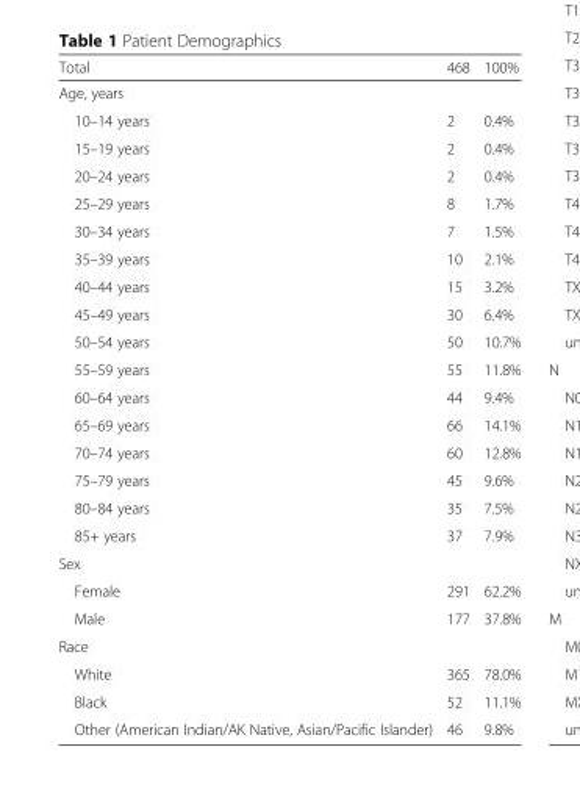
<table><thead><tr><td>Total</td><td>468</td><td>100%</td></tr></thead><tbody><tr><td colspan="3">Age, years</td></tr><tr><td>10–14 years</td><td>2</td><td>0.4%</td></tr><tr><td>15–19 years</td><td>2</td><td>0.4%</td></tr><tr><td>20–24 years</td><td>2</td><td>0.4%</td></tr><tr><td>25–29 years</td><td>8</td><td>1.7%</td></tr><tr><td>30–34 years</td><td>7</td><td>1.5%</td></tr><tr><td>35–39 years</td><td>10</td><td>2.1%</td></tr><tr><td>40–44 years</td><td>15</td><td>3.2%</td></tr><tr><td>45–49 years</td><td>30</td><td>6.4%</td></tr><tr><td>50–54 years</td><td>50</td><td>10.7%</td></tr><tr><td>55–59 years</td><td>55</td><td>11.8%</td></tr><tr><td>60–64 years</td><td>44</td><td>9.4%</td></tr><tr><td>65–69 years</td><td>66</td><td>14.1%</td></tr><tr><td>70–74 years</td><td>60</td><td>12.8%</td></tr><tr><td>75–79 years</td><td>45</td><td>9.6%</td></tr><tr><td>80–84 years</td><td>35</td><td>7.5%</td></tr><tr><td>85+ years</td><td>37</td><td>7.9%</td></tr><tr><td colspan="3">Sex</td></tr><tr><td>Female</td><td>291</td><td>62.2%</td></tr><tr><td>Male</td><td>177</td><td>37.8%</td></tr><tr><td colspan="3">Race</td></tr><tr><td>White</td><td>365</td><td>78.0%</td></tr><tr><td>Black</td><td>52</td><td>11.1%</td></tr><tr><td>Other (American Indian/AK Native, Asian/Pacific Islander)</td><td>46</td><td>9.8%</td></tr></tbody></table>